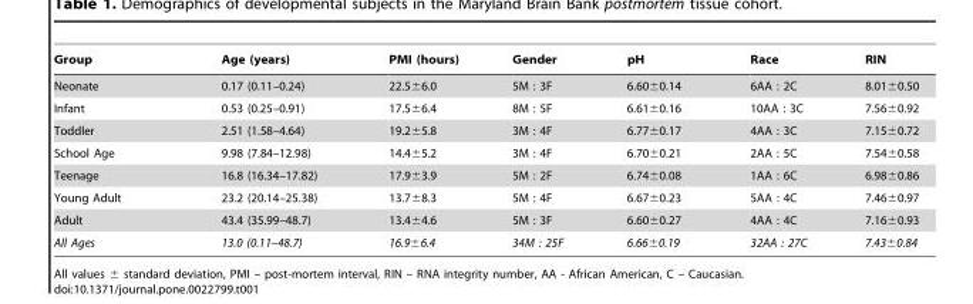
<table><thead><tr><td>Group</td><td>Age (years)</td><td>PMI (hours)</td><td>Gender</td><td>pH</td><td>Race</td><td>RIN</td></tr></thead><tbody><tr><td>Neonate</td><td>0.17 (0.11–0.24)</td><td>22.5±6.0</td><td>5M : 3F</td><td>6.60±0.14</td><td>6AA : 2C</td><td>8.01±0.50</td></tr><tr><td>Infant</td><td>0.53 (0.25–0.91)</td><td>17.5±6.4</td><td>8M : 5F</td><td>6.61±0.16</td><td>10AA : 3C</td><td>7.56±0.92</td></tr><tr><td>Toddler</td><td>2.51 (1.58–4.64)</td><td>19.2±5.8</td><td>3M : 4F</td><td>6.77±0.17</td><td>4AA : 3C</td><td>7.15±0.72</td></tr><tr><td>School Age</td><td>9.98 (7.84–12.98)</td><td>14.4±5.2</td><td>3M : 4F</td><td>6.70±0.21</td><td>2AA : 5C</td><td>7.54±0.58</td></tr><tr><td>Teenage</td><td>16.8 (16.34–17.82)</td><td>17.9±3.9</td><td>5M : 2F</td><td>6.74±0.08</td><td>1AA : 6C</td><td>6.98±0.86</td></tr><tr><td>Young Adult</td><td>23.2 (20.14–25.38)</td><td>13.7±8.3</td><td>5M : 4F</td><td>6.67±0.23</td><td>5AA : 4C</td><td>7.46±0.97</td></tr><tr><td>Adult</td><td>43.4 (35.99–48.7)</td><td>13.4±4.6</td><td>5M : 3F</td><td>6.60±0.27</td><td>4AA : 4C</td><td>7.16±0.93</td></tr><tr><td>All Ages</td><td>13.0 (0.11–48.7)</td><td>16.9±6.4</td><td>34M : 25F</td><td>6.66±0.19</td><td>32AA : 27C</td><td>7.43±0.84</td></tr></tbody></table>